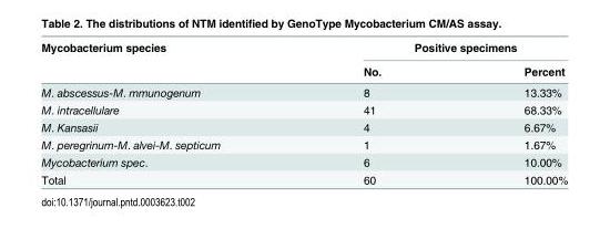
<table><thead><tr><td rowspan="2">Mycobacterium species</td><td colspan="2">Positive specimens</td></tr><tr><td>No.</td><td>Percent</td></tr></thead><tbody><tr><td>M. abscessus-M. mmunogenum</td><td>8</td><td>13.33%</td></tr><tr><td>M. intracellulare</td><td>41</td><td>68.33%</td></tr><tr><td>M. Kansasii</td><td>4</td><td>6.67%</td></tr><tr><td>M. peregrinum-M. alvei-M. septicum</td><td>1</td><td>1.67%</td></tr><tr><td>Mycobacterium spec.</td><td>6</td><td>10.00%</td></tr><tr><td>Total</td><td>60</td><td>100.00%</td></tr></tbody></table>